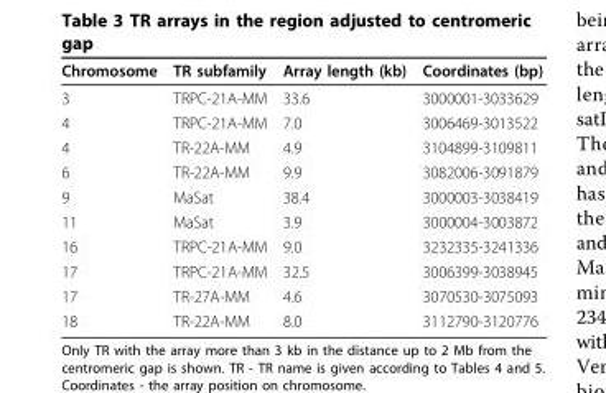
<table><thead><tr><td>Chromosome</td><td>TR subfamily</td><td>Array length (kb)</td><td>Coordinates (bp)</td></tr></thead><tbody><tr><td>3</td><td>TRPC-21A-MM</td><td>33.6</td><td>3000001-3033629</td></tr><tr><td>4</td><td>TRPC-21A-MM</td><td>7.0</td><td>3006469-3013522</td></tr><tr><td>4</td><td>TR-22A-MM</td><td>4.9</td><td>3104899-3109811</td></tr><tr><td>6</td><td>TR-22A-MM</td><td>9.9</td><td>3082006-3091879</td></tr><tr><td>9</td><td>MaSat</td><td>38.4</td><td>3000003-3038419</td></tr><tr><td>11</td><td>MaSat</td><td>3.9</td><td>3000004-3003872</td></tr><tr><td>16</td><td>TRPC-21A-MM</td><td>9.0</td><td>3232335-3241336</td></tr><tr><td>17</td><td>TRPC-21A-MM</td><td>32.5</td><td>3006399-3038945</td></tr><tr><td>17</td><td>TR-27A-MM</td><td>4.6</td><td>3070530-3075093</td></tr><tr><td>18</td><td>TR-22A-MM</td><td>8.0</td><td>3112790-3120776</td></tr></tbody></table>